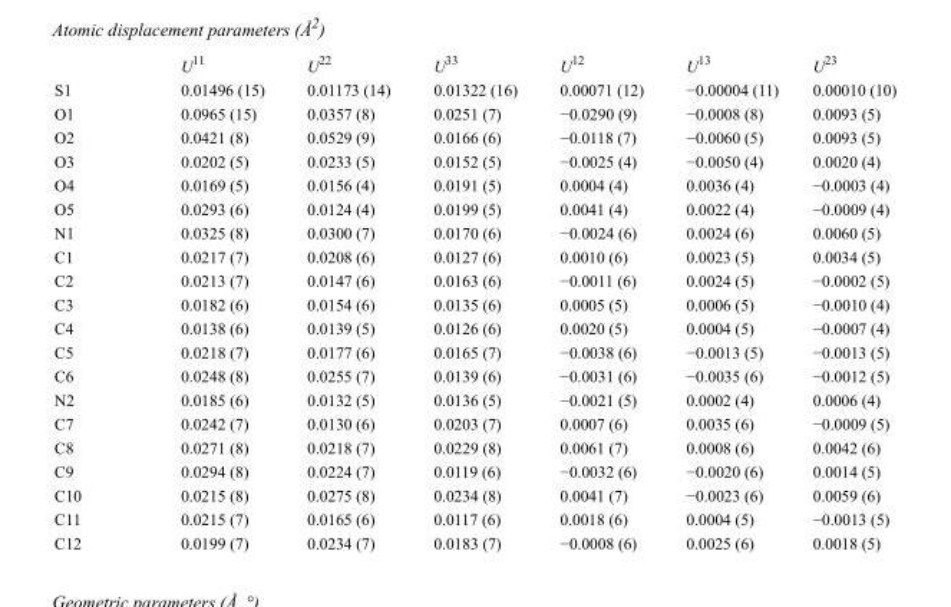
<table><thead><tr><td></td><td>U<sup>11</sup></td><td>U<sup>22</sup></td><td>U<sup>33</sup></td><td>U<sup>12</sup></td><td>U<sup>13</sup></td><td>U<sup>23</sup></td></tr></thead><tbody><tr><td>S1</td><td>0.01496 (15)</td><td>0.01173 (14)</td><td>0.01322 (16)</td><td>0.00071 (12)</td><td>−0.00004 (11)</td><td>0.00010 (10)</td></tr><tr><td>O1</td><td>0.0965 (15)</td><td>0.0357 (8)</td><td>0.0251 (7)</td><td>−0.0290 (9)</td><td>−0.0008 (8)</td><td>0.0093 (5)</td></tr><tr><td>O2</td><td>0.0421 (8)</td><td>0.0529 (9)</td><td>0.0166 (6)</td><td>−0.0118 (7)</td><td>−0.0060 (5)</td><td>0.0093 (5)</td></tr><tr><td>O3</td><td>0.0202 (5)</td><td>0.0233 (5)</td><td>0.0152 (5)</td><td>−0.0025 (4)</td><td>−0.0050 (4)</td><td>0.0020 (4)</td></tr><tr><td>O4</td><td>0.0169 (5)</td><td>0.0156 (4)</td><td>0.0191 (5)</td><td>0.0004 (4)</td><td>0.0036 (4)</td><td>−0.0003 (4)</td></tr><tr><td>O5</td><td>0.0293 (6)</td><td>0.0124 (4)</td><td>0.0199 (5)</td><td>0.0041 (4)</td><td>0.0022 (4)</td><td>−0.0009 (4)</td></tr><tr><td>N1</td><td>0.0325 (8)</td><td>0.0300 (7)</td><td>0.0170 (6)</td><td>−0.0024 (6)</td><td>0.0024 (6)</td><td>0.0060 (5)</td></tr><tr><td>C1</td><td>0.0217 (7)</td><td>0.0208 (6)</td><td>0.0127 (6)</td><td>0.0010 (6)</td><td>0.0023 (5)</td><td>0.0034 (5)</td></tr><tr><td>C2</td><td>0.0213 (7)</td><td>0.0147 (6)</td><td>0.0163 (6)</td><td>−0.0011 (6)</td><td>0.0024 (5)</td><td>−0.0002 (5)</td></tr><tr><td>C3</td><td>0.0182 (6)</td><td>0.0154 (6)</td><td>0.0135 (6)</td><td>0.0005 (5)</td><td>0.0006 (5)</td><td>−0.0010 (4)</td></tr><tr><td>C4</td><td>0.0138 (6)</td><td>0.0139 (5)</td><td>0.0126 (6)</td><td>0.0020 (5)</td><td>0.0004 (5)</td><td>−0.0007 (4)</td></tr><tr><td>C5</td><td>0.0218 (7)</td><td>0.0177 (6)</td><td>0.0165 (7)</td><td>−0.0038 (6)</td><td>−0.0013 (5)</td><td>−0.0013 (5)</td></tr><tr><td>C6</td><td>0.0248 (8)</td><td>0.0255 (7)</td><td>0.0139 (6)</td><td>−0.0031 (6)</td><td>−0.0035 (6)</td><td>−0.0012 (5)</td></tr><tr><td>N2</td><td>0.0185 (6)</td><td>0.0132 (5)</td><td>0.0136 (5)</td><td>−0.0021 (5)</td><td>0.0002 (4)</td><td>0.0006 (4)</td></tr><tr><td>C7</td><td>0.0242 (7)</td><td>0.0130 (6)</td><td>0.0203 (7)</td><td>0.0007 (6)</td><td>0.0035 (6)</td><td>−0.0009 (5)</td></tr><tr><td>C8</td><td>0.0271 (8)</td><td>0.0218 (7)</td><td>0.0229 (8)</td><td>0.0061 (7)</td><td>0.0008 (6)</td><td>0.0042 (6)</td></tr><tr><td>C9</td><td>0.0294 (8)</td><td>0.0224 (7)</td><td>0.0119 (6)</td><td>−0.0032 (6)</td><td>−0.0020 (6)</td><td>0.0014 (5)</td></tr><tr><td>C10</td><td>0.0215 (8)</td><td>0.0275 (8)</td><td>0.0234 (8)</td><td>0.0041 (7)</td><td>−0.0023 (6)</td><td>0.0059 (6)</td></tr><tr><td>C11</td><td>0.0215 (7)</td><td>0.0165 (6)</td><td>0.0117 (6)</td><td>0.0018 (6)</td><td>0.0004 (5)</td><td>−0.0013 (5)</td></tr><tr><td>C12</td><td>0.0199 (7)</td><td>0.0234 (7)</td><td>0.0183 (7)</td><td>−0.0008 (6)</td><td>0.0025 (6)</td><td>0.0018 (5)</td></tr></tbody></table>